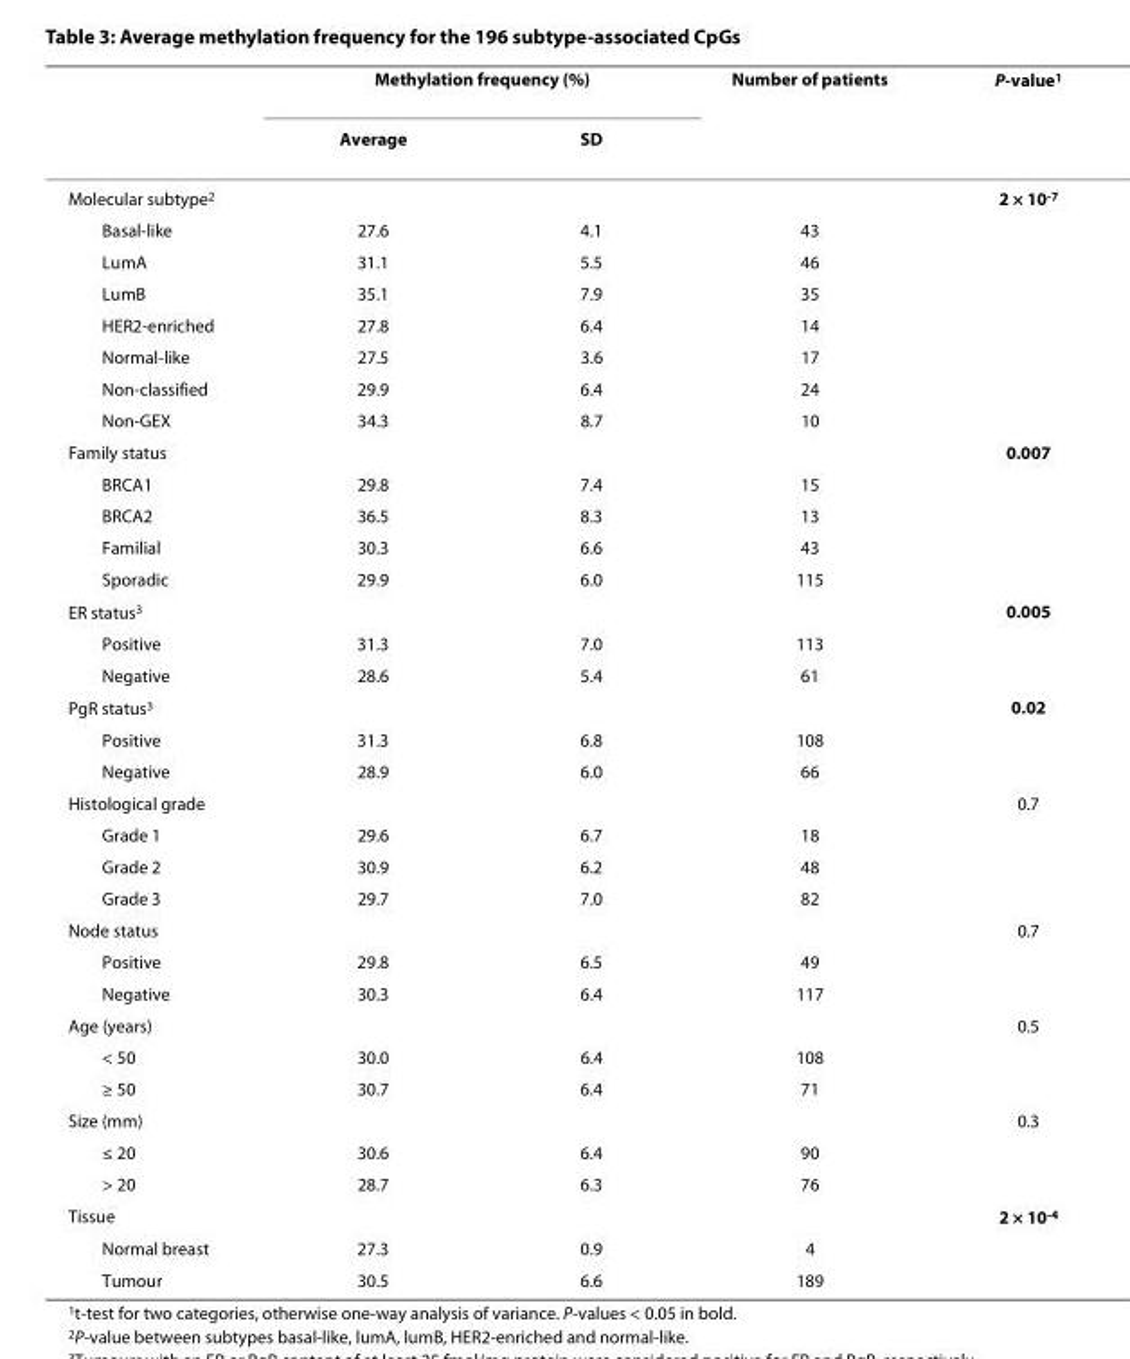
<table><thead><tr><td rowspan="2"></td><td colspan="2">Methylation frequency (%)</td><td rowspan="2">Number of patients</td><td rowspan="2">P-value<sup>1</sup></td></tr><tr><td>Average</td><td>SD</td></tr></thead><tbody><tr><td>Molecular subtype<sup>2</sup></td><td></td><td></td><td></td><td>2 × 10<sup>-7</sup></td></tr><tr><td>Basal-like</td><td>27.6</td><td>4.1</td><td>43</td><td></td></tr><tr><td>LumA</td><td>31.1</td><td>5.5</td><td>46</td><td></td></tr><tr><td>LumB</td><td>35.1</td><td>7.9</td><td>35</td><td></td></tr><tr><td>HER2-enriched</td><td>27.8</td><td>6.4</td><td>14</td><td></td></tr><tr><td>Normal-like</td><td>27.5</td><td>3.6</td><td>17</td><td></td></tr><tr><td>Non-classified</td><td>29.9</td><td>6.4</td><td>24</td><td></td></tr><tr><td>Non-GEX</td><td>34.3</td><td>8.7</td><td>10</td><td></td></tr><tr><td>Family status</td><td></td><td></td><td></td><td>0.007</td></tr><tr><td>BRCA1</td><td>29.8</td><td>7.4</td><td>15</td><td></td></tr><tr><td>BRCA2</td><td>36.5</td><td>8.3</td><td>13</td><td></td></tr><tr><td>Familial</td><td>30.3</td><td>6.6</td><td>43</td><td></td></tr><tr><td>Sporadic</td><td>29.9</td><td>6.0</td><td>115</td><td></td></tr><tr><td>ER status<sup>3</sup></td><td></td><td></td><td></td><td>0.005</td></tr><tr><td>Positive</td><td>31.3</td><td>7.0</td><td>113</td><td></td></tr><tr><td>Negative</td><td>28.6</td><td>5.4</td><td>61</td><td></td></tr><tr><td>PgR status<sup>3</sup></td><td></td><td></td><td></td><td>0.02</td></tr><tr><td>Positive</td><td>31.3</td><td>6.8</td><td>108</td><td></td></tr><tr><td>Negative</td><td>28.9</td><td>6.0</td><td>66</td><td></td></tr><tr><td>Histological grade</td><td></td><td></td><td></td><td>0.7</td></tr><tr><td>Grade 1</td><td>29.6</td><td>6.7</td><td>18</td><td></td></tr><tr><td>Grade 2</td><td>30.9</td><td>6.2</td><td>48</td><td></td></tr><tr><td>Grade 3</td><td>29.7</td><td>7.0</td><td>82</td><td></td></tr><tr><td>Node status</td><td></td><td></td><td></td><td>0.7</td></tr><tr><td>Positive</td><td>29.8</td><td>6.5</td><td>49</td><td></td></tr><tr><td>Negative</td><td>30.3</td><td>6.4</td><td>117</td><td></td></tr><tr><td>Age (years)</td><td></td><td></td><td></td><td>0.5</td></tr><tr><td>&lt; 50</td><td>30.0</td><td>6.4</td><td>108</td><td></td></tr><tr><td>≥ 50</td><td>30.7</td><td>6.4</td><td>71</td><td></td></tr><tr><td>Size (mm)</td><td></td><td></td><td></td><td>0.3</td></tr><tr><td>≤ 20</td><td>30.6</td><td>6.4</td><td>90</td><td></td></tr><tr><td>&gt; 20</td><td>28.7</td><td>6.3</td><td>76</td><td></td></tr><tr><td>Tissue</td><td></td><td></td><td></td><td>2 × 10<sup>-4</sup></td></tr><tr><td>Normal breast</td><td>27.3</td><td>0.9</td><td>4</td><td></td></tr><tr><td>Tumour</td><td>30.5</td><td>6.6</td><td>189</td><td></td></tr></tbody></table>